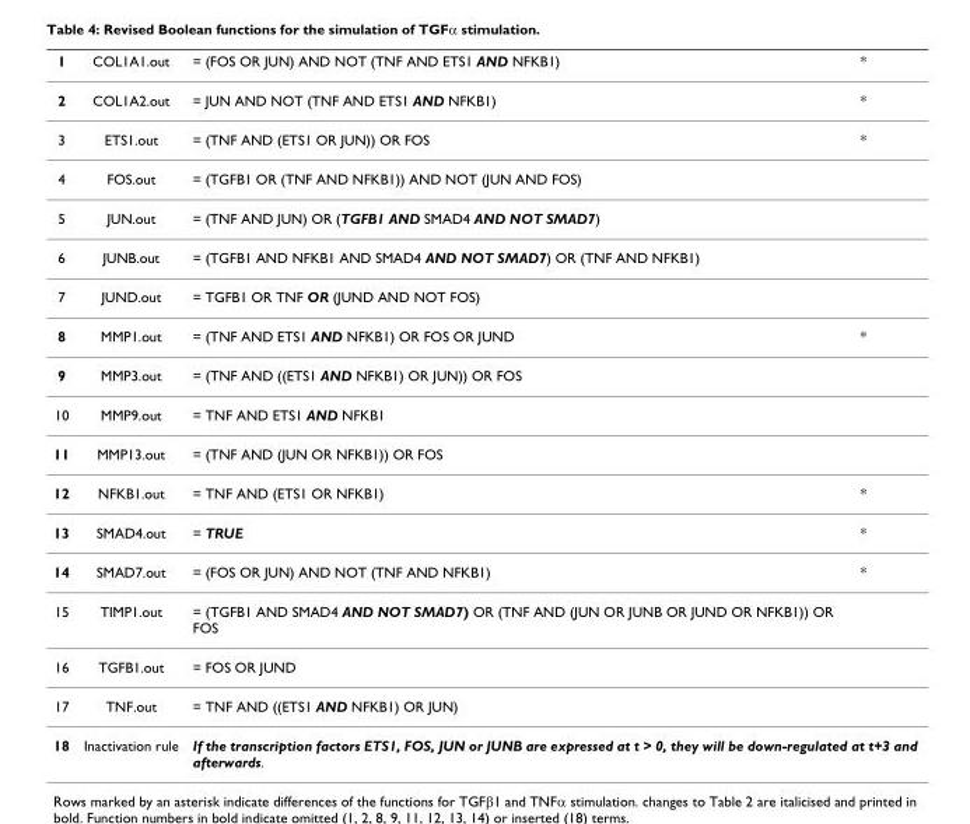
<table><thead><tr><td>1</td><td>COL1A1.out</td><td>= (FOS OR JUN) AND NOT (TNF AND ETS1 AND NFKB1)</td><td>*</td></tr></thead><tbody><tr><td>2</td><td>COL1A2.out</td><td>= JUN AND NOT (TNF AND ETS1 AND NFKB1)</td><td>*</td></tr><tr><td>3</td><td>ETS1.out</td><td>= (TNF AND (ETS1 OR JUN)) OR FOS</td><td>*</td></tr><tr><td>4</td><td>FOS.out</td><td>= (TGFB1 OR (TNF AND NFKB1)) AND NOT (JUN AND FOS)</td><td></td></tr><tr><td>5</td><td>JUN.out</td><td>= (TNF AND JUN) OR (TGFB1 AND SMAD4 AND NOT SMAD7)</td><td></td></tr><tr><td>6</td><td>JUNB.out</td><td>= (TGFB1 AND NFKB1 AND SMAD4 AND NOT SMAD7) OR (TNF AND NFKB1)</td><td></td></tr><tr><td>7</td><td>JUND.out</td><td>= TGFB1 OR TNF OR (JUND AND NOT FOS)</td><td></td></tr><tr><td>8</td><td>MMP1.out</td><td>= (TNF AND ETS1 AND NFKB1) OR FOS OR JUND</td><td>*</td></tr><tr><td>9</td><td>MMP3.out</td><td>= (TNF AND ((ETS1 AND NFKB1) OR JUN)) OR FOS</td><td></td></tr><tr><td>10</td><td>MMP9.out</td><td>= TNF AND ETS1 AND NFKB1</td><td></td></tr><tr><td>11</td><td>MMP13.out</td><td>= (TNF AND (JUN OR NFKB1)) OR FOS</td><td></td></tr><tr><td>12</td><td>NFKB1.out</td><td>= TNF AND (ETS1 OR NFKB1)</td><td>*</td></tr><tr><td>13</td><td>SMAD4.out</td><td>= TRUE</td><td>*</td></tr><tr><td>14</td><td>SMAD7.out</td><td>= (FOS OR JUN) AND NOT (TNF AND NFKB1)</td><td>*</td></tr><tr><td>15</td><td>TIMP1.out</td><td>= (TGFB1 AND SMAD4 AND NOT SMAD7) OR (TNF AND (JUN OR JUNB OR JUND OR NFKB1)) OR FOS</td><td></td></tr><tr><td>16</td><td>TGFB1.out</td><td>= FOS OR JUND</td><td></td></tr><tr><td>17</td><td>TNF.out</td><td>= TNF AND ((ETS1 AND NFKB1) OR JUN)</td><td></td></tr><tr><td>18</td><td>Inactivation rule</td><td colspan="2">If the transcription factors ETS1, FOS, JUN or JUNB are expressed at t &gt; 0, they will be down-regulated at t+3 and afterwards.</td></tr></tbody></table>